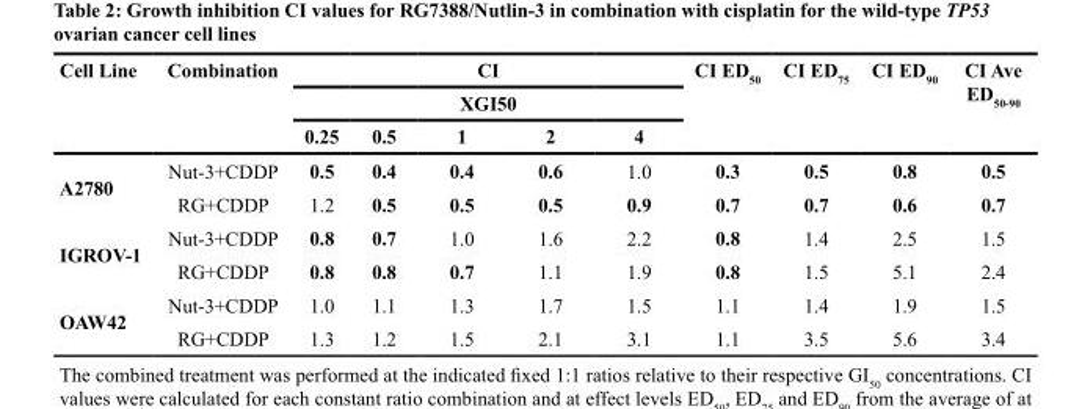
<table><thead><tr><td rowspan="3">Cell Line</td><td rowspan="3">Combination</td><td rowspan="2" colspan="5">CI XGI50</td><td rowspan="3">CI ED<sub>50</sub></td><td rowspan="3">CI ED<sub>75</sub></td><td rowspan="3">CI ED<sub>90</sub></td><td rowspan="3">CI Ave ED<sub>50-90</sub></td></tr><tr></tr><tr><td>0.25</td><td>0.5</td><td>1</td><td>2</td><td>4</td></tr></thead><tbody><tr><td rowspan="2">A2780</td><td>Nut-3+CDDP</td><td>0.5</td><td>0.4</td><td>0.4</td><td>0.6</td><td>1.0</td><td>0.3</td><td>0.5</td><td>0.8</td><td>0.5</td></tr><tr><td>RG+CDDP</td><td>1.2</td><td>0.5</td><td>0.5</td><td>0.5</td><td>0.9</td><td>0.7</td><td>0.7</td><td>0.6</td><td>0.7</td></tr><tr><td rowspan="2">IGROV-1</td><td>Nut-3+CDDP</td><td>0.8</td><td>0.7</td><td>1.0</td><td>1.6</td><td>2.2</td><td>0.8</td><td>1.4</td><td>2.5</td><td>1.5</td></tr><tr><td>RG+CDDP</td><td>0.8</td><td>0.8</td><td>0.7</td><td>1.1</td><td>1.9</td><td>0.8</td><td>1.5</td><td>5.1</td><td>2.4</td></tr><tr><td rowspan="2">OAW42</td><td>Nut-3+CDDP</td><td>1.0</td><td>1.1</td><td>1.3</td><td>1.7</td><td>1.5</td><td>1.1</td><td>1.4</td><td>1.9</td><td>1.5</td></tr><tr><td>RG+CDDP</td><td>1.3</td><td>1.2</td><td>1.5</td><td>2.1</td><td>3.1</td><td>1.1</td><td>3.5</td><td>5.6</td><td>3.4</td></tr></tbody></table>